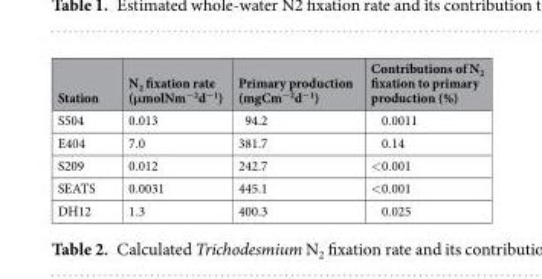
<table><thead><tr><td>Station</td><td>N<sub>2</sub> fixation rate (μmolNm<sup>−2</sup>d<sup>−1</sup>)</td><td>Primary production (mgCm<sup>−2</sup>d<sup>−1</sup>)</td><td>Contributions of N<sub>2</sub> fixation to primary production (%)</td></tr></thead><tbody><tr><td>S504</td><td>0.013</td><td>94.2</td><td>0.0011</td></tr><tr><td>E404</td><td>7.0</td><td>381.7</td><td>0.14</td></tr><tr><td>S209</td><td>0.012</td><td>242.7</td><td>&lt;0.001</td></tr><tr><td>SEATS</td><td>0.0031</td><td>445.1</td><td>&lt;0.001</td></tr><tr><td>DH12</td><td>1.3</td><td>400.3</td><td>0.025</td></tr></tbody></table>